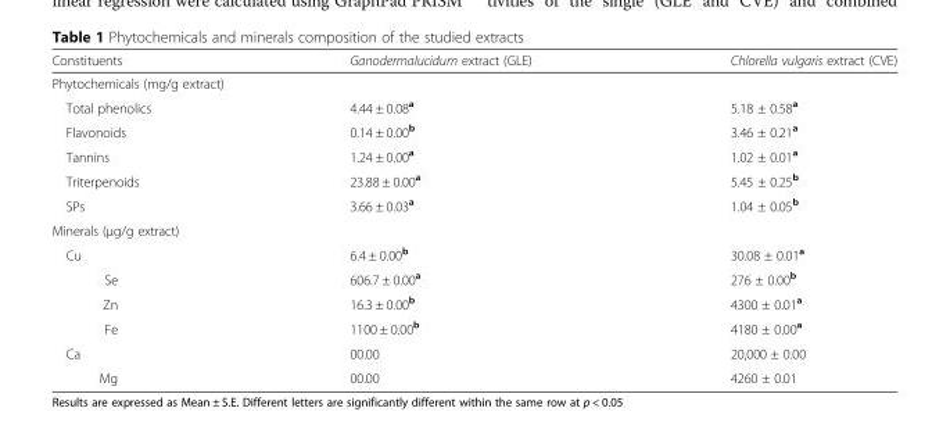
<table><thead><tr><td>Constituents</td><td>Ganodermalucidum extract (GLE)</td><td>Chlorella vulgaris extract (CVE)</td></tr></thead><tbody><tr><td colspan="3">Phytochemicals (mg/g extract)</td></tr><tr><td>Total phenolics</td><td>4.44 ± 0.08<sup>a</sup></td><td>5.18 ± 0.58<sup>a</sup></td></tr><tr><td>Flavonoids</td><td>0.14 ± 0.00<sup>b</sup></td><td>3.46 ± 0.21<sup>a</sup></td></tr><tr><td>Tannins</td><td>1.24 ± 0.00<sup>a</sup></td><td>1.02 ± 0.01<sup>a</sup></td></tr><tr><td>Triterpenoids</td><td>23.88 ± 0.00<sup>a</sup></td><td>5.45 ± 0.25<sup>b</sup></td></tr><tr><td>SPs</td><td>3.66 ± 0.03<sup>a</sup></td><td>1.04 ± 0.05<sup>b</sup></td></tr><tr><td colspan="3">Minerals (μg/g extract)</td></tr><tr><td>Cu</td><td>6.4 ± 0.00<sup>b</sup></td><td>30.08 ± 0.01<sup>a</sup></td></tr><tr><td>Se</td><td>606.7 ± 0.00<sup>a</sup></td><td>276 ± 0.00<sup>b</sup></td></tr><tr><td>Zn</td><td>16.3 ± 0.00<sup>b</sup></td><td>4300 ± 0.01<sup>a</sup></td></tr><tr><td>Fe</td><td>1100 ± 0.00<sup>b</sup></td><td>4180 ± 0.00<sup>a</sup></td></tr><tr><td>Ca</td><td>00.00</td><td>20,000 ± 0.00</td></tr><tr><td>Mg</td><td>00.00</td><td>4260 ± 0.01</td></tr></tbody></table>